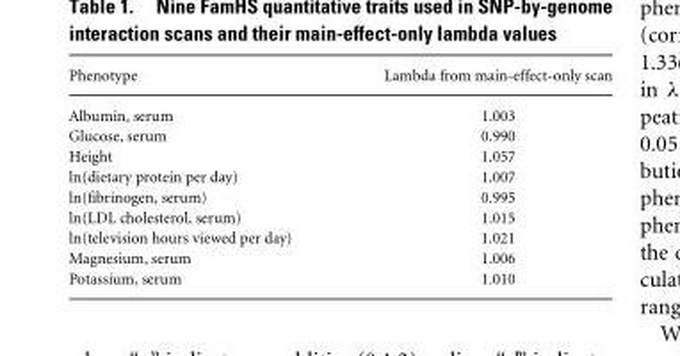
<table><thead><tr><td>Phenotype</td><td>Lambda from main-effect-only scan</td></tr></thead><tbody><tr><td>Albumin, serum</td><td>1.003</td></tr><tr><td>Glucose, serum</td><td>0.990</td></tr><tr><td>Height</td><td>1.057</td></tr><tr><td>ln(dietary protein per day)</td><td>1.007</td></tr><tr><td>ln(fibrinogen, serum)</td><td>0.995</td></tr><tr><td>ln(LDL cholesterol, serum)</td><td>1.015</td></tr><tr><td>ln(television hours viewed per day)</td><td>1.021</td></tr><tr><td>Magnesium, serum</td><td>1.006</td></tr><tr><td>Potassium, serum</td><td>1.010</td></tr></tbody></table>